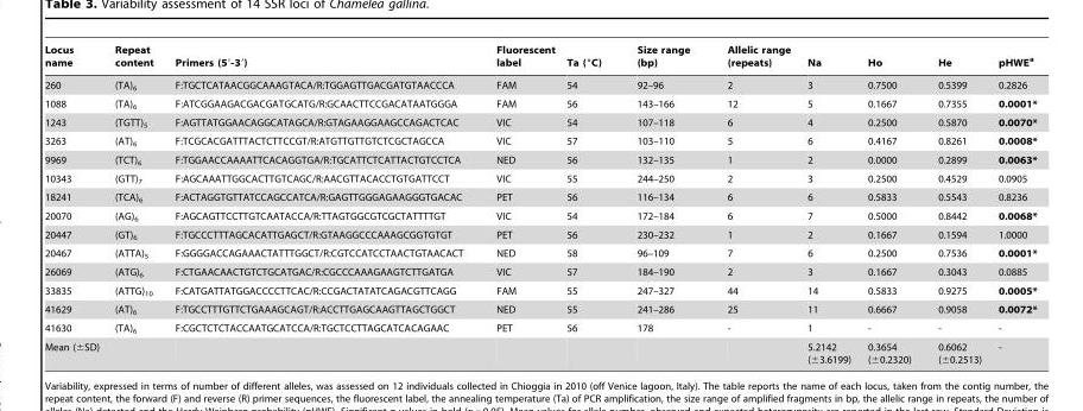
<table><thead><tr><td>Locus name</td><td>Repeat content</td><td>Primers (5′-3′)</td><td>Fluorescent label</td><td>Ta (°C)</td><td>Size range (bp)</td><td>Allelic range (repeats)</td><td>Na</td><td>Ho</td><td>He</td><td>pHWE<sup>a</sup></td></tr></thead><tbody><tr><td>260</td><td>(TA)<sub>6</sub></td><td>F:TGCTCATAACGGCAAAGTACA/R:TGGAGTTGACGATGTAACCCA</td><td>FAM</td><td>54</td><td>92–96</td><td>2</td><td>3</td><td>0.7500</td><td>0.5399</td><td>0.2826</td></tr><tr><td>1088</td><td>(TA)<sub>6</sub></td><td>F:ATCGGAAGACGACGATGCATG/R:GCAACTTCCGACATAATGGGA</td><td>FAM</td><td>56</td><td>143–166</td><td>12</td><td>5</td><td>0.1667</td><td>0.7355</td><td>0.0001*</td></tr><tr><td>1243</td><td>(TGTT)<sub>5</sub></td><td>F:AGTTATGGAACAGGCATAGCA/R:GTAGAAGGAAGCCAGACTCAC</td><td>VIC</td><td>54</td><td>107–118</td><td>6</td><td>4</td><td>0.2500</td><td>0.5870</td><td>0.0070*</td></tr><tr><td>3263</td><td>(AT)<sub>6</sub></td><td>F:TCGCACGATTTACTCTTCCGT/R:ATGTTGTTGTCTCGCTAGCCA</td><td>VIC</td><td>57</td><td>103–110</td><td>5</td><td>6</td><td>0.4167</td><td>0.8261</td><td>0.0008*</td></tr><tr><td>9969</td><td>(TCT)<sub>6</sub></td><td>F:TGGAACCAAAATTCACAGGTGA/R:TGCATTCTCATTACTGTCCTCA</td><td>NED</td><td>56</td><td>132–135</td><td>1</td><td>2</td><td>0.0000</td><td>0.2899</td><td>0.0063*</td></tr><tr><td>10343</td><td>(GTT)<sub>7</sub></td><td>F:AGCAAATTGGCACTTGTCAGC/R:AACGTTACACCTGTGATTCCT</td><td>VIC</td><td>55</td><td>244–250</td><td>2</td><td>3</td><td>0.2500</td><td>0.4529</td><td>0.0905</td></tr><tr><td>18241</td><td>(TCA)<sub>6</sub></td><td>F:ACTAGGTGTTATCCAGCCATCA/R:GAGTTGGGAGAAGGGTGACAC</td><td>PET</td><td>56</td><td>116–134</td><td>6</td><td>6</td><td>0.5833</td><td>0.5543</td><td>0.8236</td></tr><tr><td>20070</td><td>(AG)<sub>6</sub></td><td>F:AGCAGTTCCTTGTCAATACCA/R:TTAGTGGCGTCGCTATTTTGT</td><td>VIC</td><td>54</td><td>172–184</td><td>6</td><td>7</td><td>0.5000</td><td>0.8442</td><td>0.0068*</td></tr><tr><td>20447</td><td>(GT)<sub>6</sub></td><td>F:TGCCCTTTAGCACATTGAGCT/R:GTAAGGCCCAAAGCGGTGTGT</td><td>PET</td><td>56</td><td>230–232</td><td>1</td><td>2</td><td>0.1667</td><td>0.1594</td><td>1.0000</td></tr><tr><td>20467</td><td>(ATTA)<sub>5</sub></td><td>F:GGGGACCAGAAACTATTTGGCT/R:CGTCCATCCTAACTGTAACACT</td><td>NED</td><td>58</td><td>96–109</td><td>7</td><td>6</td><td>0.2500</td><td>0.7536</td><td>0.0001*</td></tr><tr><td>26069</td><td>(ATG)<sub>6</sub></td><td>F:CTGAACAACTGTCTGCATGAC/R:CGCCCAAAGAAGTCTTGATGA</td><td>VIC</td><td>57</td><td>184–190</td><td>2</td><td>3</td><td>0.1667</td><td>0.3043</td><td>0.0885</td></tr><tr><td>33835</td><td>(ATTG)<sub>10</sub></td><td>F:CATGATTATGGACCCCTTCAC/R:CCGACTATATCAGACGTTCAGG</td><td>FAM</td><td>55</td><td>247–327</td><td>44</td><td>14</td><td>0.5833</td><td>0.9275</td><td>0.0005*</td></tr><tr><td>41629</td><td>(AT)<sub>6</sub></td><td>F:TGCCTTTGTTCTGAAAGCAGT/R:ACCTTGAGCAAGTTAGCTGGCT</td><td>NED</td><td>55</td><td>241–286</td><td>25</td><td>11</td><td>0.6667</td><td>0.9058</td><td>0.0072*</td></tr><tr><td>41630</td><td>(TA)<sub>6</sub></td><td>F:CGCTCTCTACCAATGCATCCA/R:TGCTCCTTAGCATCACAGAAC</td><td>PET</td><td>56</td><td>178</td><td>-</td><td>1</td><td>-</td><td>-</td><td>-</td></tr><tr><td>Mean (±SD)</td><td></td><td></td><td></td><td></td><td></td><td></td><td>5.2142 (±3.6199)</td><td>0.3654 (±0.2320)</td><td>0.6062 (±0.2513)</td><td>-</td></tr></tbody></table>